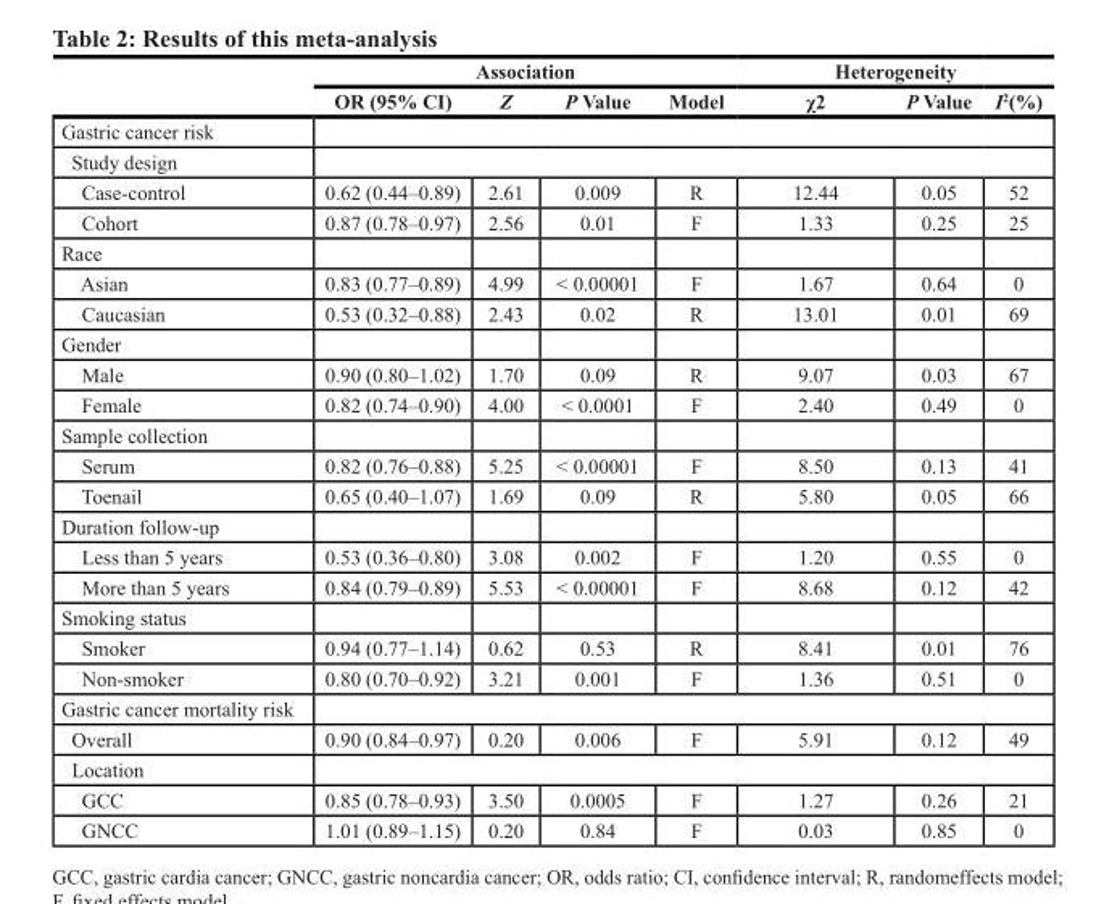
<table><thead><tr><td rowspan="2"></td><td colspan="4">Association</td><td colspan="3">Heterogeneity</td></tr><tr><td>OR (95% CI)</td><td>Z</td><td>P Value</td><td>Model</td><td>χ2</td><td>P Value</td><td>I<sup>2</sup>(%)</td></tr></thead><tbody><tr><td colspan="8">Gastric cancer risk</td></tr><tr><td colspan="8">Study design</td></tr><tr><td>Case-control</td><td>0.62 (0.44–0.89)</td><td>2.61</td><td>0.009</td><td>R</td><td>12.44</td><td>0.05</td><td>52</td></tr><tr><td>Cohort</td><td>0.87 (0.78–0.97)</td><td>2.56</td><td>0.01</td><td>F</td><td>1.33</td><td>0.25</td><td>25</td></tr><tr><td colspan="8">Race</td></tr><tr><td>Asian</td><td>0.83 (0.77–0.89)</td><td>4.99</td><td>&lt; 0.00001</td><td>F</td><td>1.67</td><td>0.64</td><td>0</td></tr><tr><td>Caucasian</td><td>0.53 (0.32–0.88)</td><td>2.43</td><td>0.02</td><td>R</td><td>13.01</td><td>0.01</td><td>69</td></tr><tr><td colspan="8">Gender</td></tr><tr><td>Male</td><td>0.90 (0.80–1.02)</td><td>1.70</td><td>0.09</td><td>R</td><td>9.07</td><td>0.03</td><td>67</td></tr><tr><td>Female</td><td>0.82 (0.74–0.90)</td><td>4.00</td><td>&lt; 0.0001</td><td>F</td><td>2.40</td><td>0.49</td><td>0</td></tr><tr><td colspan="8">Sample collection</td></tr><tr><td>Serum</td><td>0.82 (0.76–0.88)</td><td>5.25</td><td>&lt; 0.00001</td><td>F</td><td>8.50</td><td>0.13</td><td>41</td></tr><tr><td>Toenail</td><td>0.65 (0.40–1.07)</td><td>1.69</td><td>0.09</td><td>R</td><td>5.80</td><td>0.05</td><td>66</td></tr><tr><td colspan="8">Duration follow-up</td></tr><tr><td>Less than 5 years</td><td>0.53 (0.36–0.80)</td><td>3.08</td><td>0.002</td><td>F</td><td>1.20</td><td>0.55</td><td>0</td></tr><tr><td>More than 5 years</td><td>0.84 (0.79–0.89)</td><td>5.53</td><td>&lt; 0.00001</td><td>F</td><td>8.68</td><td>0.12</td><td>42</td></tr><tr><td colspan="8">Smoking status</td></tr><tr><td>Smoker</td><td>0.94 (0.77–1.14)</td><td>0.62</td><td>0.53</td><td>R</td><td>8.41</td><td>0.01</td><td>76</td></tr><tr><td>Non-smoker</td><td>0.80 (0.70–0.92)</td><td>3.21</td><td>0.001</td><td>F</td><td>1.36</td><td>0.51</td><td>0</td></tr><tr><td colspan="8">Gastric cancer mortality risk</td></tr><tr><td>Overall</td><td>0.90 (0.84–0.97)</td><td>0.20</td><td>0.006</td><td>F</td><td>5.91</td><td>0.12</td><td>49</td></tr><tr><td colspan="8">Location</td></tr><tr><td>GCC</td><td>0.85 (0.78–0.93)</td><td>3.50</td><td>0.0005</td><td>F</td><td>1.27</td><td>0.26</td><td>21</td></tr><tr><td>GNCC</td><td>1.01 (0.89–1.15)</td><td>0.20</td><td>0.84</td><td>F</td><td>0.03</td><td>0.85</td><td>0</td></tr></tbody></table>